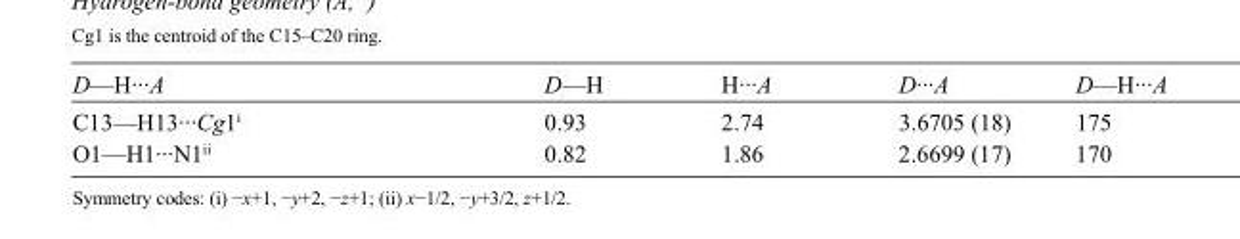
<table><tbody><tr><td>D—H···A</td><td>D—H</td><td>H···A</td><td>D···A</td><td>D—H···A</td></tr><tr><td>C13—H13···Cg1<sup>i</sup></td><td>0.93</td><td>2.74</td><td>3.6705 (18)</td><td>175</td></tr><tr><td>O1—H1···N1<sup>ii</sup></td><td>0.82</td><td>1.86</td><td>2.6699 (17)</td><td>170</td></tr></tbody></table>